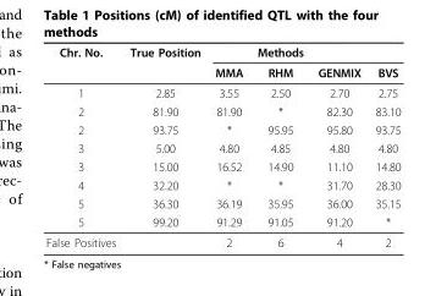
<table><thead><tr><td rowspan="2">Chr. No.</td><td rowspan="2">True Position</td><td rowspan="2">MMA</td><td rowspan="2">Methods RHM</td><td rowspan="2">GENMIX</td><td rowspan="2">BVS</td></tr><tr></tr></thead><tbody><tr><td>1</td><td>2.85</td><td>3.55</td><td>2.50</td><td>2.70</td><td>2.75</td></tr><tr><td>2</td><td>81.90</td><td>81.90</td><td>*</td><td>82.30</td><td>83.10</td></tr><tr><td>2</td><td>93.75</td><td>*</td><td>95.95</td><td>95.80</td><td>93.75</td></tr><tr><td>3</td><td>5.00</td><td>4.80</td><td>4.85</td><td>4.80</td><td>4.80</td></tr><tr><td>3</td><td>15.00</td><td>16.52</td><td>14.90</td><td>11.10</td><td>14.80</td></tr><tr><td>4</td><td>32.20</td><td>*</td><td>*</td><td>31.70</td><td>28.30</td></tr><tr><td>5</td><td>36.30</td><td>36.19</td><td>35.95</td><td>36.00</td><td>35.15</td></tr><tr><td>5</td><td>99.20</td><td>91.29</td><td>91.05</td><td>91.20</td><td>*</td></tr><tr><td>False Positives</td><td></td><td>2</td><td>6</td><td>4</td><td>2</td></tr></tbody></table>